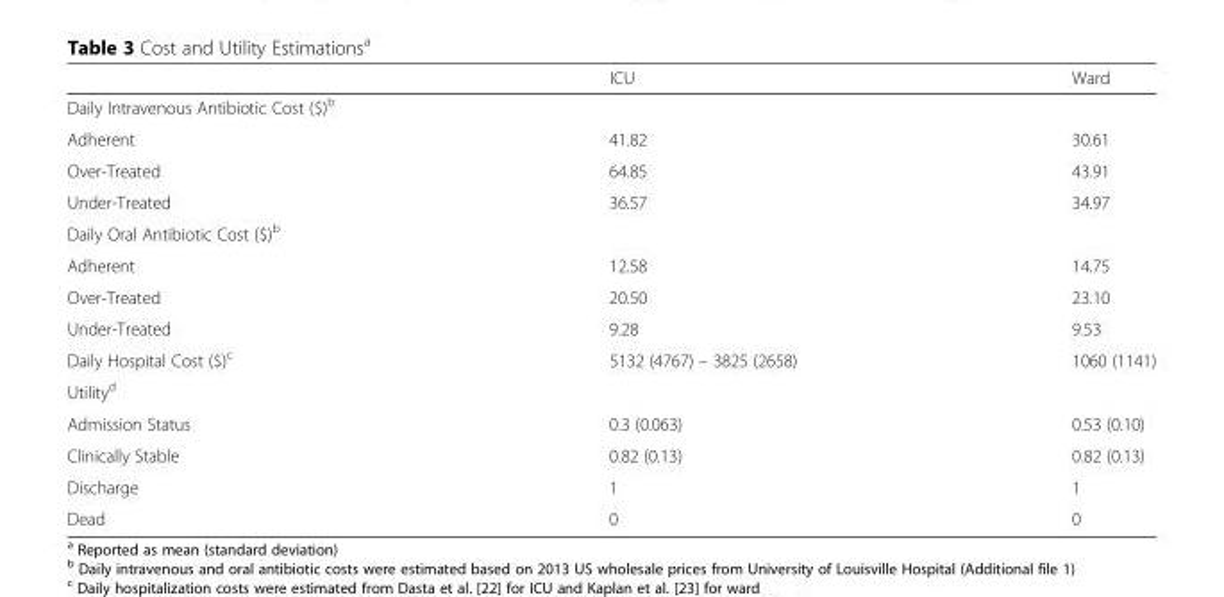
<table><thead><tr><td></td><td>ICU</td><td>Ward</td></tr></thead><tbody><tr><td colspan="3">Daily Intravenous Antibiotic Cost ($)<sup>b</sup></td></tr><tr><td>Adherent</td><td>41.82</td><td>30.61</td></tr><tr><td>Over-Treated</td><td>64.85</td><td>43.91</td></tr><tr><td>Under-Treated</td><td>36.57</td><td>34.97</td></tr><tr><td colspan="3">Daily Oral Antibiotic Cost ($)<sup>b</sup></td></tr><tr><td>Adherent</td><td>12.58</td><td>14.75</td></tr><tr><td>Over-Treated</td><td>20.50</td><td>23.10</td></tr><tr><td>Under-Treated</td><td>9.28</td><td>9.53</td></tr><tr><td>Daily Hospital Cost ($)<sup>c</sup></td><td>5132 (4767) – 3825 (2658)</td><td>1060 (1141)</td></tr><tr><td colspan="3">Utility<sup>d</sup></td></tr><tr><td>Admission Status</td><td>0.3 (0.063)</td><td>0.53 (0.10)</td></tr><tr><td>Clinically Stable</td><td>0.82 (0.13)</td><td>0.82 (0.13)</td></tr><tr><td>Discharge</td><td>1</td><td>1</td></tr><tr><td>Dead</td><td>0</td><td>0</td></tr></tbody></table>